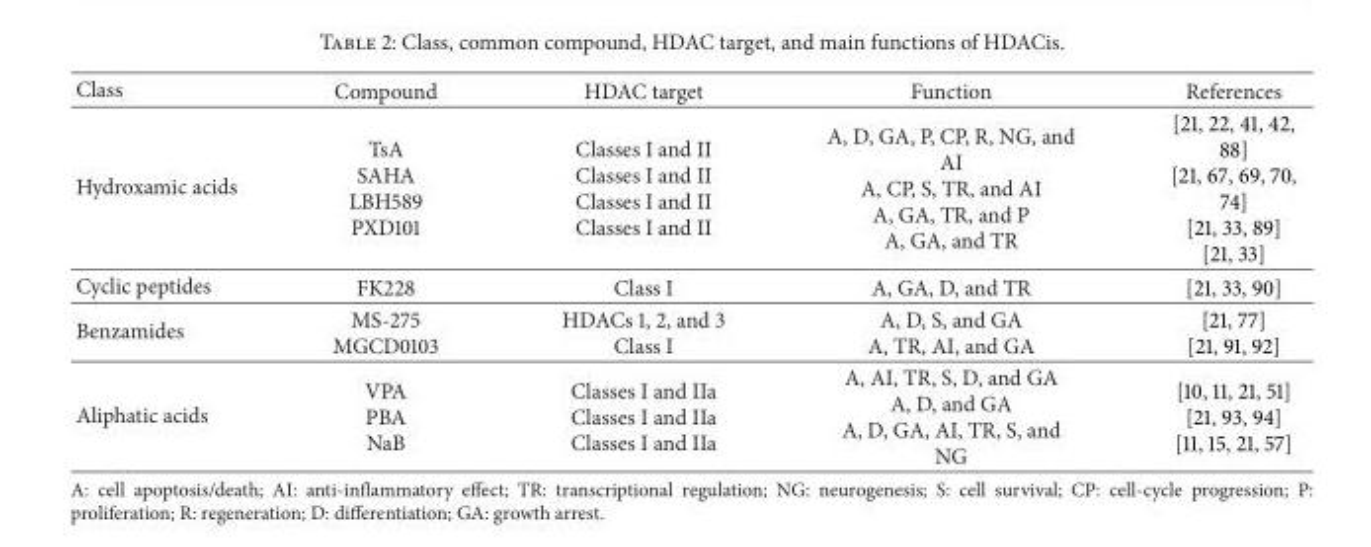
<table><thead><tr><td>Class</td><td>Compound</td><td>HDAC target</td><td>Function</td><td>References</td></tr></thead><tbody><tr><td>Hydroxamic acids</td><td>TsA SAHA LBH589 PXD101</td><td>Classes I and II Classes I and II Classes I and II Classes I and II</td><td>A, D, GA, P, CP, R, NG, and AI A, CP, S, TR, and AI A, GA, TR, and P A, GA, and TR</td><td>[21, 22, 41, 42, 88] [21, 67, 69, 70, 74] [21, 33, 89] [21, 33]</td></tr><tr><td>Cyclic peptides</td><td>FK228</td><td>Class I</td><td>A, GA, D, and TR</td><td>[21, 33, 90]</td></tr><tr><td>Benzamides</td><td>MS-275 MGCD0103</td><td>HDACs 1, 2, and 3 Class I</td><td>A, D, S, and GA A, TR, AI, and GA</td><td>[21, 77] [21, 91, 92]</td></tr><tr><td>Aliphatic acids</td><td>VPA PBA NaB</td><td>Classes I and IIa Classes I and IIa Classes I and IIa</td><td>A, AI, TR, S, D, and GA A, D, and GA A, D, GA, AI, TR, S, and NG</td><td>[10, 11, 21, 51] [21, 93, 94] [11, 15, 21, 57]</td></tr></tbody></table>